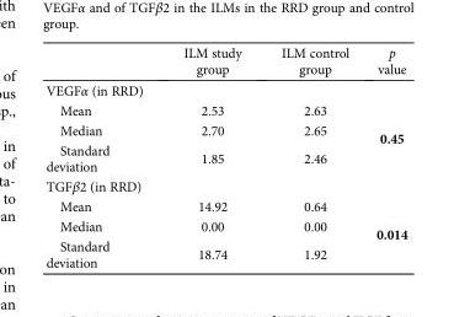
<table><thead><tr><td></td><td>ILM study group</td><td>ILM control group</td><td>p value</td></tr></thead><tbody><tr><td colspan="4">VEGFα (in RRD)</td></tr><tr><td>Mean</td><td>2.53</td><td>2.63</td><td rowspan="3">0.45</td></tr><tr><td>Median</td><td>2.70</td><td>2.65</td></tr><tr><td>Standard deviation</td><td>1.85</td><td>2.46</td></tr><tr><td colspan="4">TGFβ2 (in RRD)</td></tr><tr><td>Mean</td><td>14.92</td><td>0.64</td><td rowspan="3">0.014</td></tr><tr><td>Median</td><td>0.00</td><td>0.00</td></tr><tr><td>Standard deviation</td><td>18.74</td><td>1.92</td></tr></tbody></table>